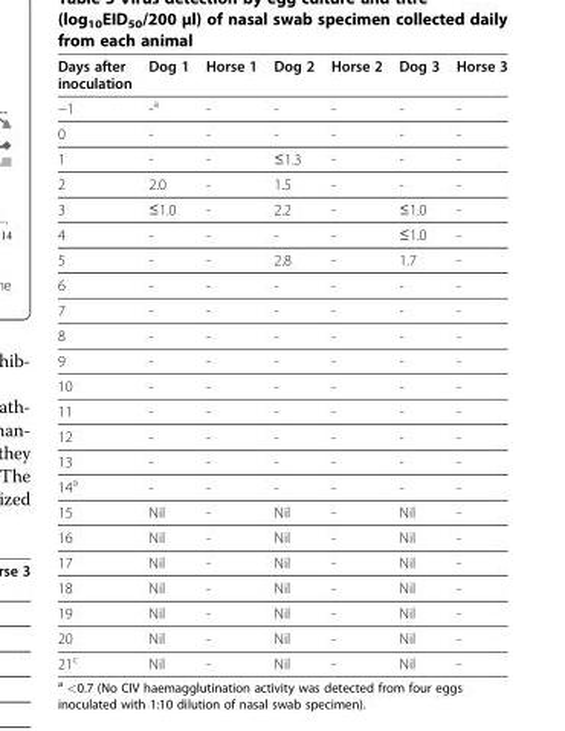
<table><thead><tr><td>Days after inoculation</td><td>Dog 1</td><td>Horse 1</td><td>Dog 2</td><td>Horse 2</td><td>Dog 3</td><td>Horse 3</td></tr></thead><tbody><tr><td>−1</td><td>-<sup>a</sup></td><td>-</td><td>-</td><td>-</td><td>-</td><td>-</td></tr><tr><td>0</td><td>-</td><td>-</td><td>-</td><td>-</td><td>-</td><td>-</td></tr><tr><td>1</td><td>-</td><td>-</td><td>≤1.3</td><td>-</td><td>-</td><td>-</td></tr><tr><td>2</td><td>2.0</td><td>-</td><td>1.5</td><td>-</td><td>-</td><td>-</td></tr><tr><td>3</td><td>≤1.0</td><td>-</td><td>2.2</td><td>-</td><td>≤1.0</td><td>-</td></tr><tr><td>4</td><td>-</td><td>-</td><td>-</td><td>-</td><td>≤1.0</td><td>-</td></tr><tr><td>5</td><td>-</td><td>-</td><td>2.8</td><td>-</td><td>1.7</td><td>-</td></tr><tr><td>6</td><td>-</td><td>-</td><td>-</td><td>-</td><td>-</td><td>-</td></tr><tr><td>7</td><td>-</td><td>-</td><td>-</td><td>-</td><td>-</td><td>-</td></tr><tr><td>8</td><td>-</td><td>-</td><td>-</td><td>-</td><td>-</td><td>-</td></tr><tr><td>9</td><td>-</td><td>-</td><td>-</td><td>-</td><td>-</td><td>-</td></tr><tr><td>10</td><td>-</td><td>-</td><td>-</td><td>-</td><td>-</td><td>-</td></tr><tr><td>11</td><td>-</td><td>-</td><td>-</td><td>-</td><td>-</td><td>-</td></tr><tr><td>12</td><td>-</td><td>-</td><td>-</td><td>-</td><td>-</td><td>-</td></tr><tr><td>13</td><td>-</td><td>-</td><td>-</td><td>-</td><td>-</td><td>-</td></tr><tr><td>14<sup>a</sup></td><td>-</td><td>-</td><td>-</td><td>-</td><td>-</td><td>-</td></tr><tr><td>15</td><td>Nil</td><td>-</td><td>Nil</td><td>-</td><td>Nil</td><td>-</td></tr><tr><td>16</td><td>Nil</td><td>-</td><td>Nil</td><td>-</td><td>Nil</td><td>-</td></tr><tr><td>17</td><td>Nil</td><td>-</td><td>Nil</td><td>-</td><td>Nil</td><td>-</td></tr><tr><td>18</td><td>Nil</td><td>-</td><td>Nil</td><td>-</td><td>Nil</td><td>-</td></tr><tr><td>19</td><td>Nil</td><td>-</td><td>Nil</td><td>-</td><td>Nil</td><td>-</td></tr><tr><td>20</td><td>Nil</td><td>-</td><td>Nil</td><td>-</td><td>Nil</td><td>-</td></tr><tr><td>21<sup>c</sup></td><td>Nil</td><td>-</td><td>Nil</td><td>-</td><td>Nil</td><td>-</td></tr></tbody></table>